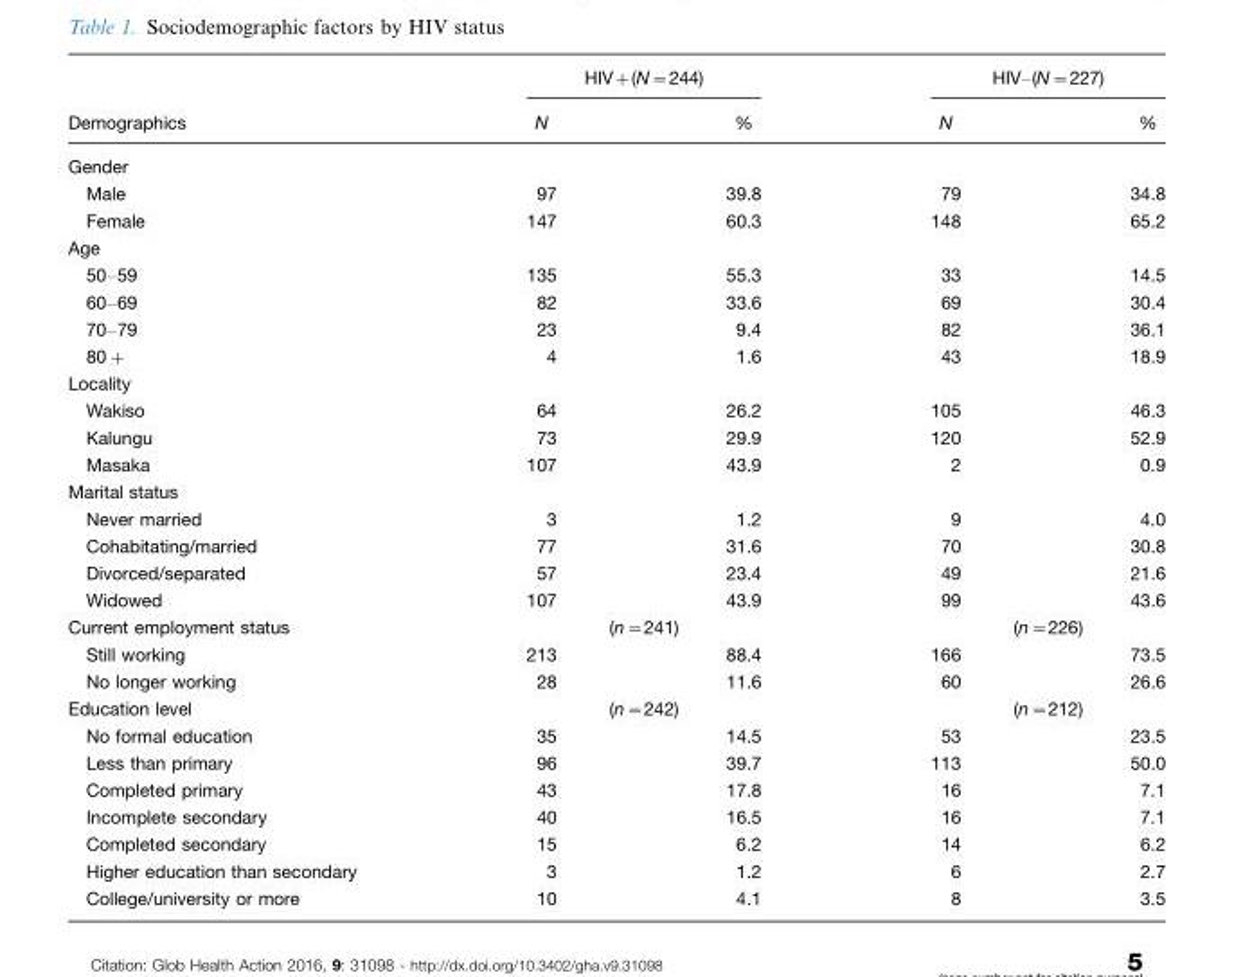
<table><thead><tr><td rowspan="2">Demographics</td><td colspan="2">HIV+(N=244)</td><td colspan="2">HIV–(N=227)</td></tr><tr><td>N</td><td>%</td><td>N</td><td>%</td></tr></thead><tbody><tr><td colspan="5">Gender</td></tr><tr><td>Male</td><td>97</td><td>39.8</td><td>79</td><td>34.8</td></tr><tr><td>Female</td><td>147</td><td>60.3</td><td>148</td><td>65.2</td></tr><tr><td colspan="5">Age</td></tr><tr><td>50–59</td><td>135</td><td>55.3</td><td>33</td><td>14.5</td></tr><tr><td>60–69</td><td>82</td><td>33.6</td><td>69</td><td>30.4</td></tr><tr><td>70–79</td><td>23</td><td>9.4</td><td>82</td><td>36.1</td></tr><tr><td>80+</td><td>4</td><td>1.6</td><td>43</td><td>18.9</td></tr><tr><td colspan="5">Locality</td></tr><tr><td>Wakiso</td><td>64</td><td>26.2</td><td>105</td><td>46.3</td></tr><tr><td>Kalungu</td><td>73</td><td>29.9</td><td>120</td><td>52.9</td></tr><tr><td>Masaka</td><td>107</td><td>43.9</td><td>2</td><td>0.9</td></tr><tr><td colspan="5">Marital status</td></tr><tr><td>Never married</td><td>3</td><td>1.2</td><td>9</td><td>4.0</td></tr><tr><td>Cohabitating/married</td><td>77</td><td>31.6</td><td>70</td><td>30.8</td></tr><tr><td>Divorced/separated</td><td>57</td><td>23.4</td><td>49</td><td>21.6</td></tr><tr><td>Widowed</td><td>107</td><td>43.9</td><td>99</td><td>43.6</td></tr><tr><td>Current employment status</td><td colspan="2">(n=241)</td><td colspan="2">(n=226)</td></tr><tr><td>Still working</td><td>213</td><td>88.4</td><td>166</td><td>73.5</td></tr><tr><td>No longer working</td><td>28</td><td>11.6</td><td>60</td><td>26.6</td></tr><tr><td>Education level</td><td colspan="2">(n=242)</td><td colspan="2">(n=212)</td></tr><tr><td>No formal education</td><td>35</td><td>14.5</td><td>53</td><td>23.5</td></tr><tr><td>Less than primary</td><td>96</td><td>39.7</td><td>113</td><td>50.0</td></tr><tr><td>Completed primary</td><td>43</td><td>17.8</td><td>16</td><td>7.1</td></tr><tr><td>Incomplete secondary</td><td>40</td><td>16.5</td><td>16</td><td>7.1</td></tr><tr><td>Completed secondary</td><td>15</td><td>6.2</td><td>14</td><td>6.2</td></tr><tr><td>Higher education than secondary</td><td>3</td><td>1.2</td><td>6</td><td>2.7</td></tr><tr><td>College/university or more</td><td>10</td><td>4.1</td><td>8</td><td>3.5</td></tr></tbody></table>